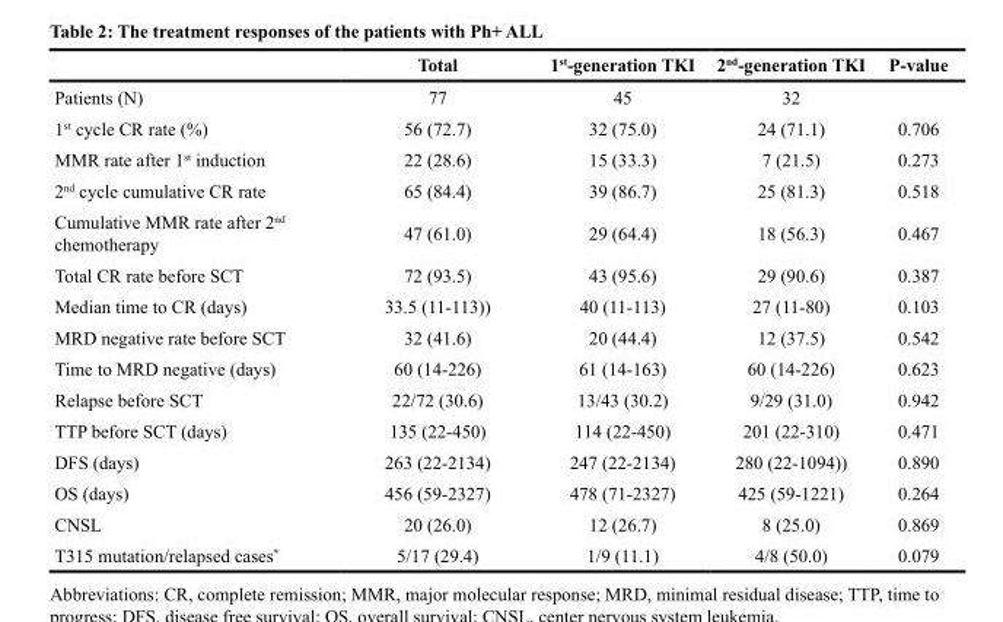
<table><thead><tr><td></td><td>Total</td><td>1<sup>st</sup>-generation TKI</td><td>2<sup>nd</sup>-generation TKI</td><td>P-value</td></tr></thead><tbody><tr><td>Patients (N)</td><td>77</td><td>45</td><td>32</td><td></td></tr><tr><td>1<sup>st</sup> cycle CR rate (%)</td><td>56 (72.7)</td><td>32 (75.0)</td><td>24 (71.1)</td><td>0.706</td></tr><tr><td>MMR rate after 1<sup>st</sup> induction</td><td>22 (28.6)</td><td>15 (33.3)</td><td>7 (21.5)</td><td>0.273</td></tr><tr><td>2<sup>nd</sup> cycle cumulative CR rate</td><td>65 (84.4)</td><td>39 (86.7)</td><td>25 (81.3)</td><td>0.518</td></tr><tr><td>Cumulative MMR rate after 2<sup>nd</sup> chemotherapy</td><td>47 (61.0)</td><td>29 (64.4)</td><td>18 (56.3)</td><td>0.467</td></tr><tr><td>Total CR rate before SCT</td><td>72 (93.5)</td><td>43 (95.6)</td><td>29 (90.6)</td><td>0.387</td></tr><tr><td>Median time to CR (days)</td><td>33.5 (11-113))</td><td>40 (11-113)</td><td>27 (11-80)</td><td>0.103</td></tr><tr><td>MRD negative rate before SCT</td><td>32 (41.6)</td><td>20 (44.4)</td><td>12 (37.5)</td><td>0.542</td></tr><tr><td>Time to MRD negative (days)</td><td>60 (14-226)</td><td>61 (14-163)</td><td>60 (14-226)</td><td>0.623</td></tr><tr><td>Relapse before SCT</td><td>22/72 (30.6)</td><td>13/43 (30.2)</td><td>9/29 (31.0)</td><td>0.942</td></tr><tr><td>TTP before SCT (days)</td><td>135 (22-450)</td><td>114 (22-450)</td><td>201 (22-310)</td><td>0.471</td></tr><tr><td>DFS (days)</td><td>263 (22-2134)</td><td>247 (22-2134)</td><td>280 (22-1094))</td><td>0.890</td></tr><tr><td>OS (days)</td><td>456 (59-2327)</td><td>478 (71-2327)</td><td>425 (59-1221)</td><td>0.264</td></tr><tr><td>CNSL</td><td>20 (26.0)</td><td>12 (26.7)</td><td>8 (25.0)</td><td>0.869</td></tr><tr><td>T315 mutation/relapsed cases*</td><td>5/17 (29.4)</td><td>1/9 (11.1)</td><td>4/8 (50.0)</td><td>0.079</td></tr></tbody></table>